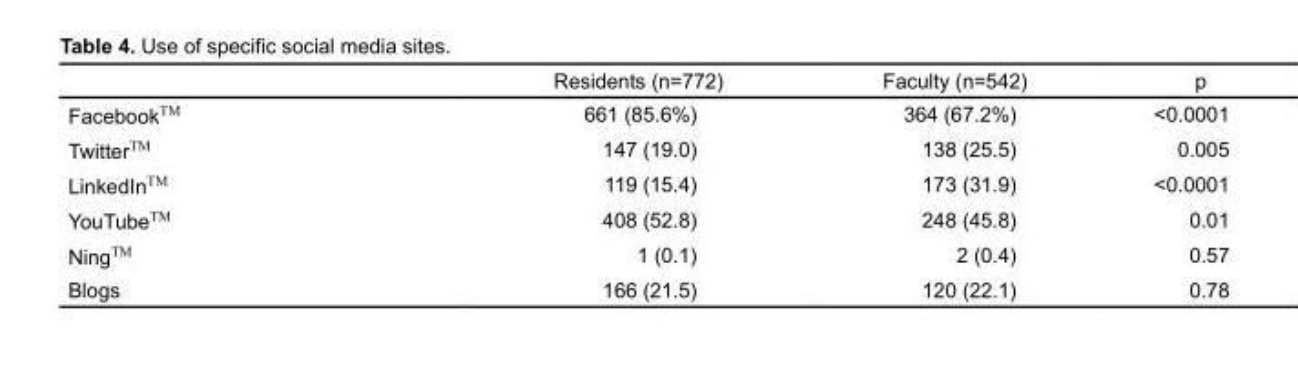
<table><thead><tr><td></td><td>Residents (n=772)</td><td>Faculty (n=542)</td><td>p</td></tr></thead><tbody><tr><td>FacebookTM</td><td>661 (85.6%)</td><td>364 (67.2%)</td><td>&lt;0.0001</td></tr><tr><td>TwitterTM</td><td>147 (19.0)</td><td>138 (25.5)</td><td>0.005</td></tr><tr><td>LinkedInTM</td><td>119 (15.4)</td><td>173 (31.9)</td><td>&lt;0.0001</td></tr><tr><td>YouTubeTM</td><td>408 (52.8)</td><td>248 (45.8)</td><td>0.01</td></tr><tr><td>NingTM</td><td>1 (0.1)</td><td>2 (0.4)</td><td>0.57</td></tr><tr><td>Blogs</td><td>166 (21.5)</td><td>120 (22.1)</td><td>0.78</td></tr></tbody></table>